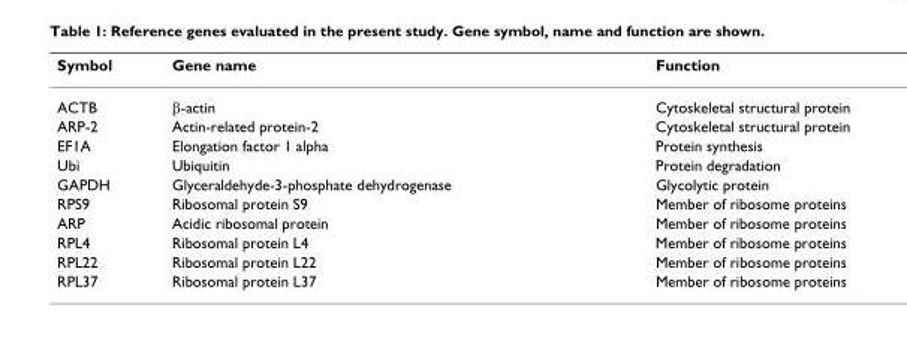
<table><thead><tr><td>Symbol</td><td>Gene name</td><td>Function</td></tr></thead><tbody><tr><td>ACTB</td><td>β-actin</td><td>Cytoskeletal structural protein</td></tr><tr><td>ARP-2</td><td>Actin-related protein-2</td><td>Cytoskeletal structural protein</td></tr><tr><td>EF1A</td><td>Elongation factor 1 alpha</td><td>Protein synthesis</td></tr><tr><td>Ubi</td><td>Ubiquitin</td><td>Protein degradation</td></tr><tr><td>GAPDH</td><td>Glyceraldehyde-3-phosphate dehydrogenase</td><td>Glycolytic protein</td></tr><tr><td>RPS9</td><td>Ribosomal protein S9</td><td>Member of ribosome proteins</td></tr><tr><td>ARP</td><td>Acidic ribosomal protein</td><td>Member of ribosome proteins</td></tr><tr><td>RPL4</td><td>Ribosomal protein L4</td><td>Member of ribosome proteins</td></tr><tr><td>RPL22</td><td>Ribosomal protein L22</td><td>Member of ribosome proteins</td></tr><tr><td>RPL37</td><td>Ribosomal protein L37</td><td>Member of ribosome proteins</td></tr></tbody></table>